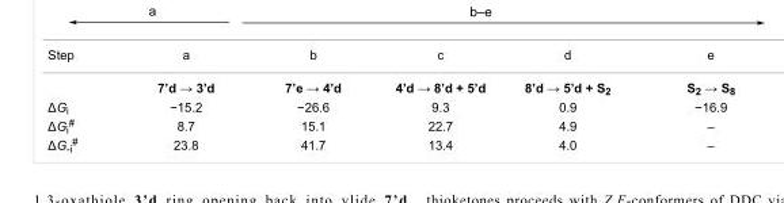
<table><tbody><tr><td rowspan="2">Step</td><td>a</td><td>b</td><td>c</td><td>d</td><td>e</td></tr><tr><td>7’d → 3’d</td><td>7’e → 4’d</td><td>4’d → 8’d + 5’d</td><td>8’d → 5’d + S<sub>2</sub></td><td>S<sub>2</sub> → S<sub>8</sub></td></tr><tr><td>ΔG<sub>i</sub></td><td>−15.2</td><td>−26.6</td><td>9.3</td><td>0.9</td><td>−16.9</td></tr><tr><td>ΔG<sub>i</sub><sup>#</sup></td><td>8.7</td><td>15.1</td><td>22.7</td><td>4.9</td><td>–</td></tr><tr><td>ΔG<sub>-i</sub><sup>#</sup></td><td>23.8</td><td>41.7</td><td>13.4</td><td>4.0</td><td>–</td></tr></tbody></table>